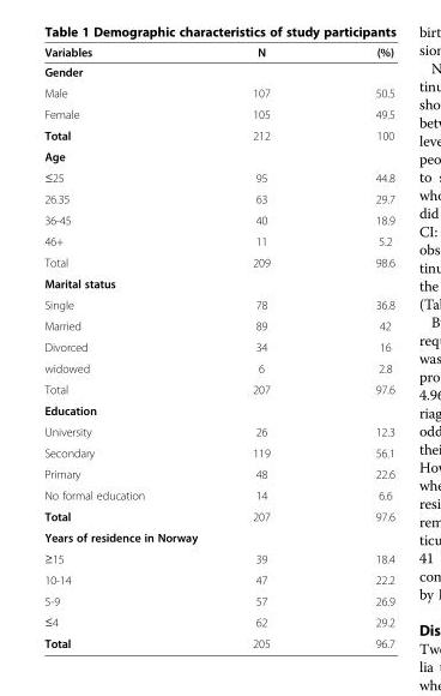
<table><thead><tr><td>Variables</td><td>N</td><td>(%)</td></tr></thead><tbody><tr><td colspan="3">Gender</td></tr><tr><td>Male</td><td>107</td><td>50.5</td></tr><tr><td>Female</td><td>105</td><td>49.5</td></tr><tr><td>Total</td><td>212</td><td>100</td></tr><tr><td colspan="3">Age</td></tr><tr><td>≤25</td><td>95</td><td>44.8</td></tr><tr><td>26.35</td><td>63</td><td>29.7</td></tr><tr><td>36-45</td><td>40</td><td>18.9</td></tr><tr><td>46+</td><td>11</td><td>5.2</td></tr><tr><td>Total</td><td>209</td><td>98.6</td></tr><tr><td colspan="3">Marital status</td></tr><tr><td>Single</td><td>78</td><td>36.8</td></tr><tr><td>Married</td><td>89</td><td>42</td></tr><tr><td>Divorced</td><td>34</td><td>16</td></tr><tr><td>widowed</td><td>6</td><td>2.8</td></tr><tr><td>Total</td><td>207</td><td>97.6</td></tr><tr><td colspan="3">Education</td></tr><tr><td>University</td><td>26</td><td>12.3</td></tr><tr><td>Secondary</td><td>119</td><td>56.1</td></tr><tr><td>Primary</td><td>48</td><td>22.6</td></tr><tr><td>No formal education</td><td>14</td><td>6.6</td></tr><tr><td>Total</td><td>207</td><td>97.6</td></tr><tr><td colspan="3">Years of residence in Norway</td></tr><tr><td>≥15</td><td>39</td><td>18.4</td></tr><tr><td>10-14</td><td>47</td><td>22.2</td></tr><tr><td>5-9</td><td>57</td><td>26.9</td></tr><tr><td>≤4</td><td>62</td><td>29.2</td></tr><tr><td>Total</td><td>205</td><td>96.7</td></tr></tbody></table>